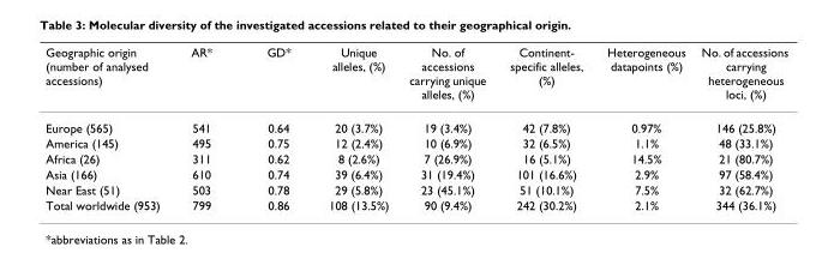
<table><thead><tr><td>Geographic origin (number of analysed accessions)</td><td>AR*</td><td>GD*</td><td>Unique alleles, (%)</td><td>No. of accessions carrying unique alleles, (%)</td><td>Continent- specific alleles, (%)</td><td>Heterogeneous datapoints (%)</td><td>No. of accessions carrying heterogeneous loci, (%)</td></tr></thead><tbody><tr><td>Europe (565)</td><td>541</td><td>0.64</td><td>20 (3.7%)</td><td>19 (3.4%)</td><td>42 (7.8%)</td><td>0.97%</td><td>146 (25.8%)</td></tr><tr><td>America (145)</td><td>495</td><td>0.75</td><td>12 (2.4%)</td><td>10 (6.9%)</td><td>32 (6.5%)</td><td>1.1%</td><td>48 (33.1%)</td></tr><tr><td>Africa (26)</td><td>311</td><td>0.62</td><td>8 (2.6%)</td><td>7 (26.9%)</td><td>16 (5.1%)</td><td>14.5%</td><td>21 (80.7%)</td></tr><tr><td>Asia (166)</td><td>610</td><td>0.74</td><td>39 (6.4%)</td><td>31 (19.4%)</td><td>101 (16.6%)</td><td>2.9%</td><td>97 (58.4%)</td></tr><tr><td>Near East (51)</td><td>503</td><td>0.78</td><td>29 (5.8%)</td><td>23 (45.1%)</td><td>51 (10.1%)</td><td>7.5%</td><td>32 (62.7%)</td></tr><tr><td>Total worldwide (953)</td><td>799</td><td>0.86</td><td>108 (13.5%)</td><td>90 (9.4%)</td><td>242 (30.2%)</td><td>2.1%</td><td>344 (36.1%)</td></tr></tbody></table>